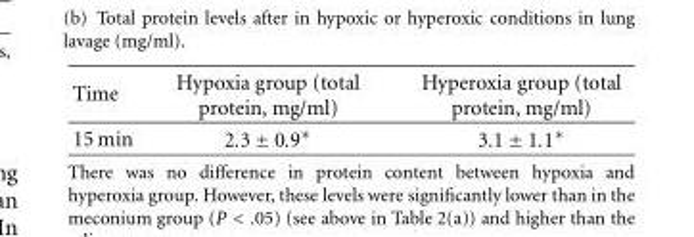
<table><thead><tr><td>Time</td><td>Hypoxia group (total protein, mg/ml)</td><td>Hyperoxia group (total protein, mg/ml)</td></tr></thead><tbody><tr><td>15 min</td><td>2.3 ± 0.9∗</td><td>3.1 ± 1.1∗</td></tr></tbody></table>